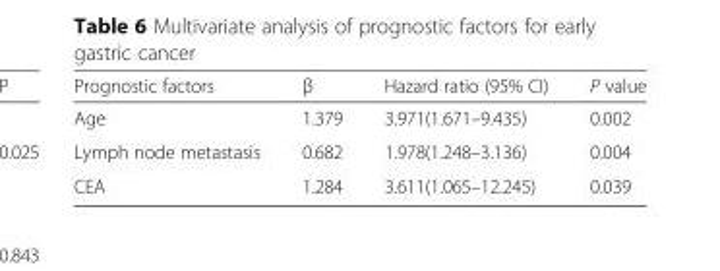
<table><thead><tr><td>Prognostic factors</td><td>β</td><td>Hazard ratio (95% CI)</td><td>P value</td></tr></thead><tbody><tr><td>Age</td><td>1.379</td><td>3.971(1.671–9.435)</td><td>0.002</td></tr><tr><td>Lymph node metastasis</td><td>0.682</td><td>1.978(1.248–3.136)</td><td>0.004</td></tr><tr><td>CEA</td><td>1.284</td><td>3.611(1.065–12.245)</td><td>0.039</td></tr></tbody></table>